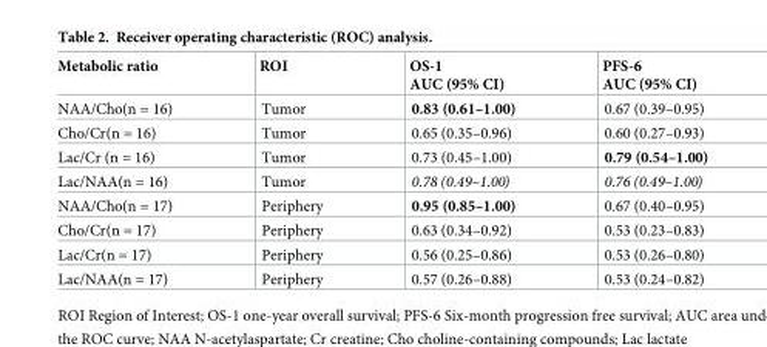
<table><thead><tr><td>Metabolic ratio</td><td>ROI</td><td>OS-1 AUC (95% CI)</td><td>PFS-6 AUC (95% CI)</td></tr></thead><tbody><tr><td>NAA/Cho(n = 16)</td><td>Tumor</td><td>0.83 (0.61–1.00)</td><td>0.67 (0.39–0.95)</td></tr><tr><td>Cho/Cr(n = 16)</td><td>Tumor</td><td>0.65 (0.35–0.96)</td><td>0.60 (0.27–0.93)</td></tr><tr><td>Lac/Cr (n = 16)</td><td>Tumor</td><td>0.73 (0.45–1.00)</td><td>0.79 (0.54–1.00)</td></tr><tr><td>Lac/NAA(n = 16)</td><td>Tumor</td><td>0.78 (0.49–1.00)</td><td>0.76 (0.49–1.00)</td></tr><tr><td>NAA/Cho(n = 17)</td><td>Periphery</td><td>0.95 (0.85–1.00)</td><td>0.67 (0.40–0.95)</td></tr><tr><td>Cho/Cr(n = 17)</td><td>Periphery</td><td>0.63 (0.34–0.92)</td><td>0.53 (0.23–0.83)</td></tr><tr><td>Lac/Cr(n = 17)</td><td>Periphery</td><td>0.56 (0.25–0.86)</td><td>0.53 (0.26–0.80)</td></tr><tr><td>Lac/NAA(n = 17)</td><td>Periphery</td><td>0.57 (0.26–0.88)</td><td>0.53 (0.24–0.82)</td></tr></tbody></table>